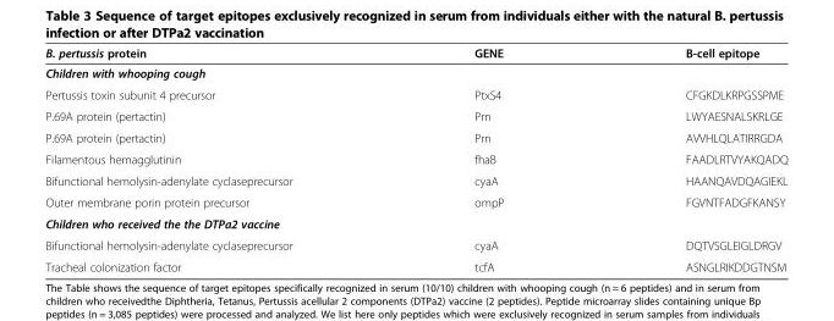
<table><thead><tr><td>B. pertussis protein</td><td>GENE</td><td>B-cell epitope</td></tr></thead><tbody><tr><td colspan="3">Children with whooping cough</td></tr><tr><td>Pertussis toxin subunit 4 precursor</td><td>PtxS4</td><td>CFGKDLKRPGSSPME</td></tr><tr><td>P.69A protein (pertactin)</td><td>Prn</td><td>LWYAESNALSKRLGE</td></tr><tr><td>P.69A protein (pertactin)</td><td>Prn</td><td>AVVHLQLATIRRGDA</td></tr><tr><td>Filamentous hemagglutinin</td><td>fhaB</td><td>FAADLRTVYAKQADQ</td></tr><tr><td>Bifunctional hemolysin-adenylate cyclaseprecursor</td><td>cyaA</td><td>HAANQAVDQAGIEKL</td></tr><tr><td>Outer membrane porin protein precursor</td><td>ompP</td><td>FGVNTFADGFKANSY</td></tr><tr><td colspan="3">Children who received the the DTPa2 vaccine</td></tr><tr><td>Bifunctional hemolysin-adenylate cyclaseprecursor</td><td>cyaA</td><td>DQTVSGLEIGLDRGV</td></tr><tr><td>Tracheal colonization factor</td><td>tcfA</td><td>ASNGLRIKDDGTNSM</td></tr></tbody></table>